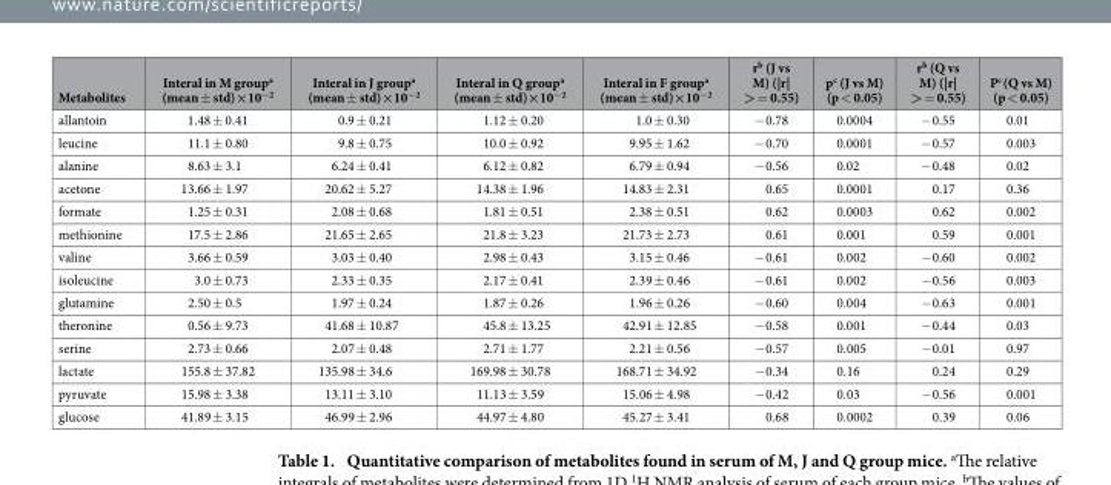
<table><thead><tr><td>Metabolites</td><td>Interal in M group<sup>a</sup> (mean ± std)×10<sup>−2</sup></td><td>Interal in J group<sup>a</sup> (mean ± std)×10<sup>−2</sup></td><td>Interal in Q group<sup>a</sup> (mean ± std)×10<sup>−2</sup></td><td>Interal in F group<sup>a</sup> (mean ± std)×10<sup>−2</sup></td><td>r<sup>b</sup> (J vs M) (|r| &gt; = 0.55)</td><td>p<sup>c</sup> (J vs M) (p &lt; 0.05)</td><td>r<sup>b</sup> (Q vs M) (|r| &gt; = 0.55)</td><td>P<sup>c</sup> (Q vs M) (p &lt; 0.05)</td></tr></thead><tbody><tr><td>allantoin</td><td>1.48 ± 0.41</td><td>0.9 ± 0.21</td><td>1.12 ± 0.20</td><td>1.0 ± 0.30</td><td>− 0.78</td><td>0.0004</td><td>− 0.55</td><td>0.01</td></tr><tr><td>leucine</td><td>11.1 ± 0.80</td><td>9.8 ± 0.75</td><td>10.0 ± 0.92</td><td>9.95 ± 1.62</td><td>− 0.70</td><td>0.0001</td><td>− 0.57</td><td>0.003</td></tr><tr><td>alanine</td><td>8.63 ± 3.1</td><td>6.24 ± 0.41</td><td>6.12 ± 0.82</td><td>6.79 ± 0.94</td><td>− 0.56</td><td>0.02</td><td>− 0.48</td><td>0.02</td></tr><tr><td>acetone</td><td>13.66 ± 1.97</td><td>20.62 ± 5.27</td><td>14.38 ± 1.96</td><td>14.83 ± 2.31</td><td>0.65</td><td>0.0001</td><td>0.17</td><td>0.36</td></tr><tr><td>formate</td><td>1.25 ± 0.31</td><td>2.08 ± 0.68</td><td>1.81 ± 0.51</td><td>2.38 ± 0.51</td><td>0.62</td><td>0.0003</td><td>0.62</td><td>0.002</td></tr><tr><td>methionine</td><td>17.5 ± 2.86</td><td>21.65 ± 2.65</td><td>21.8 ± 3.23</td><td>21.73 ± 2.73</td><td>0.61</td><td>0.001</td><td>0.59</td><td>0.001</td></tr><tr><td>valine</td><td>3.66 ± 0.59</td><td>3.03 ± 0.40</td><td>2.98 ± 0.43</td><td>3.15 ± 0.46</td><td>− 0.61</td><td>0.002</td><td>− 0.60</td><td>0.002</td></tr><tr><td>isoleucine</td><td>3.0 ± 0.73</td><td>2.33 ± 0.35</td><td>2.17 ± 0.41</td><td>2.39 ± 0.46</td><td>− 0.61</td><td>0.002</td><td>− 0.56</td><td>0.003</td></tr><tr><td>glutamine</td><td>2.50 ± 0.5</td><td>1.97 ± 0.24</td><td>1.87 ± 0.26</td><td>1.96 ± 0.26</td><td>− 0.60</td><td>0.004</td><td>− 0.63</td><td>0.001</td></tr><tr><td>theronine</td><td>0.56 ± 9.73</td><td>41.68 ± 10.87</td><td>45.8 ± 13.25</td><td>42.91 ± 12.85</td><td>− 0.58</td><td>0.001</td><td>− 0.44</td><td>0.03</td></tr><tr><td>serine</td><td>2.73 ± 0.66</td><td>2.07 ± 0.48</td><td>2.71 ± 1.77</td><td>2.21 ± 0.56</td><td>− 0.57</td><td>0.005</td><td>− 0.01</td><td>0.97</td></tr><tr><td>lactate</td><td>155.8 ± 37.82</td><td>135.98 ± 34.6</td><td>169.98 ± 30.78</td><td>168.71 ± 34.92</td><td>− 0.34</td><td>0.16</td><td>0.24</td><td>0.29</td></tr><tr><td>pyruvate</td><td>15.98 ± 3.38</td><td>13.11 ± 3.10</td><td>11.13 ± 3.59</td><td>15.06 ± 4.98</td><td>− 0.42</td><td>0.03</td><td>− 0.56</td><td>0.001</td></tr><tr><td>glucose</td><td>41.89 ± 3.15</td><td>46.99 ± 2.96</td><td>44.97 ± 4.80</td><td>45.27 ± 3.41</td><td>0.68</td><td>0.0002</td><td>0.39</td><td>0.06</td></tr></tbody></table>